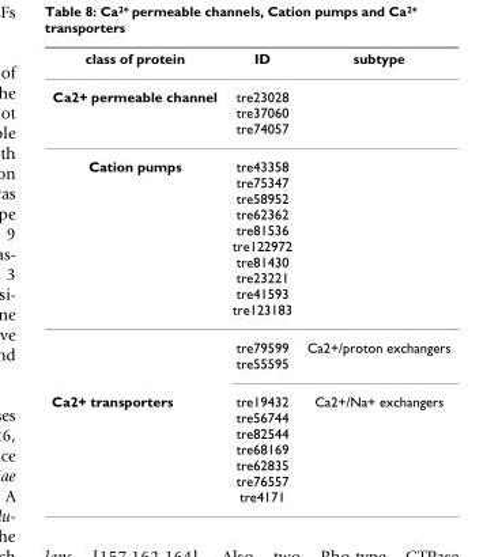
<table><thead><tr><td>class of protein</td><td>ID</td><td>subtype</td></tr></thead><tbody><tr><td>Ca2+ permeable channel</td><td>tre23028 tre37060 tre74057</td><td></td></tr><tr><td rowspan="2">Cation pumps</td><td>tre43358 tre75347 tre58952 tre62362 tre81536 tre122972 tre81430 tre23221 tre41593 tre123183</td><td></td></tr><tr><td>tre79599 tre55595</td><td>Ca2+/proton exchangers</td></tr><tr><td>Ca2+ transporters</td><td>tre19432 tre56744 tre82544 tre68169 tre62835 tre76557 tre4171</td><td>Ca2+/Na+ exchangers</td></tr></tbody></table>